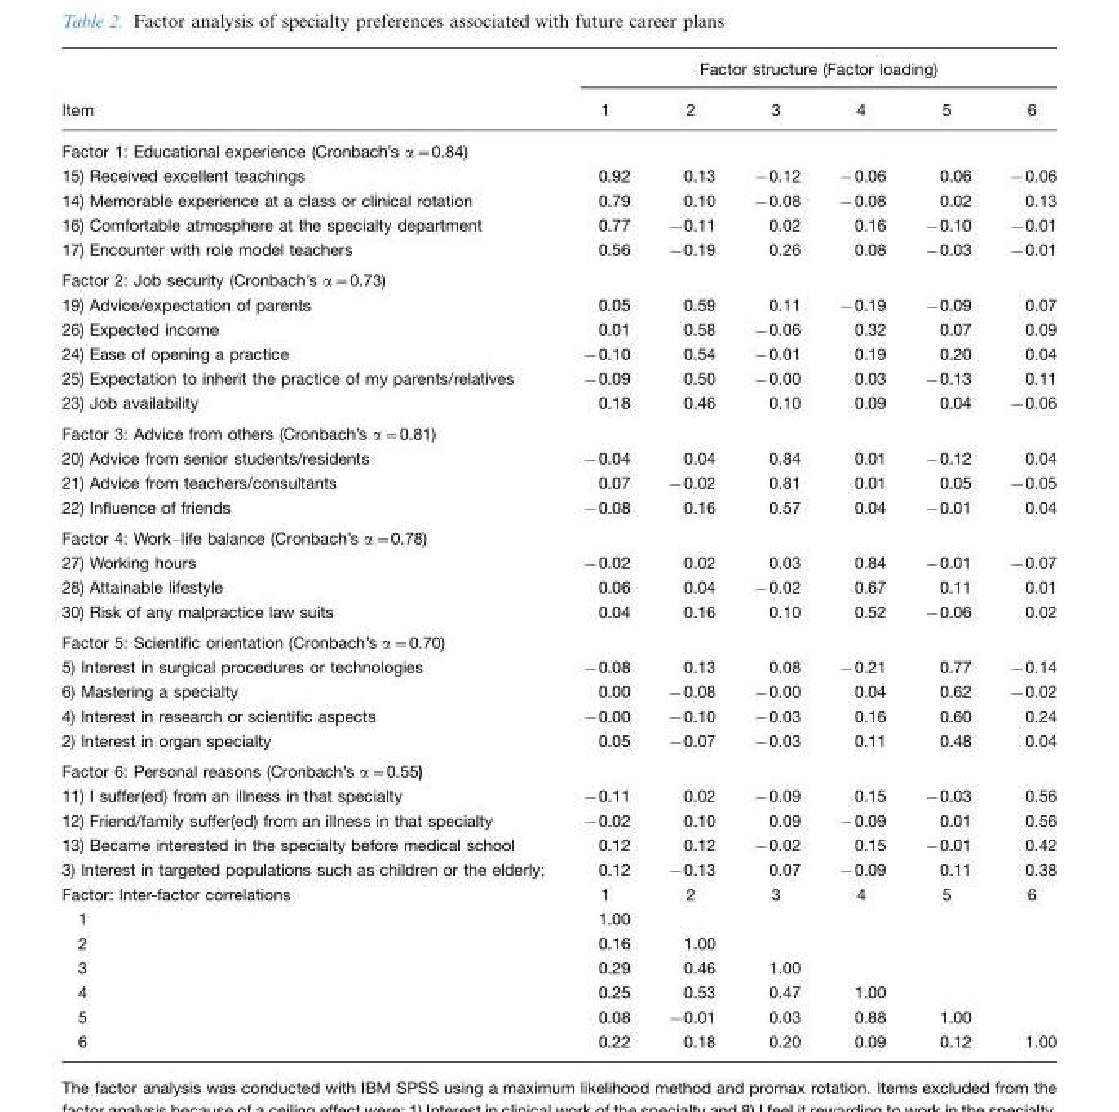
<table><thead><tr><td rowspan="2">Item</td><td colspan="6">Factor structure (Factor loading)</td></tr><tr><td>1</td><td>2</td><td>3</td><td>4</td><td>5</td><td>6</td></tr></thead><tbody><tr><td colspan="7">Factor 1: Educational experience (Cronbach’s α=0.84)</td></tr><tr><td>15) Received excellent teachings</td><td>0.92</td><td>0.13</td><td>−0.12</td><td>−0.06</td><td>0.06</td><td>−0.06</td></tr><tr><td>14) Memorable experience at a class or clinical rotation</td><td>0.79</td><td>0.10</td><td>−0.08</td><td>−0.08</td><td>0.02</td><td>0.13</td></tr><tr><td>16) Comfortable atmosphere at the specialty department</td><td>0.77</td><td>−0.11</td><td>0.02</td><td>0.16</td><td>−0.10</td><td>−0.01</td></tr><tr><td>17) Encounter with role model teachers</td><td>0.56</td><td>−0.19</td><td>0.26</td><td>0.08</td><td>−0.03</td><td>−0.01</td></tr><tr><td colspan="7">Factor 2: Job security (Cronbach’s α=0.73)</td></tr><tr><td>19) Advice/expectation of parents</td><td>0.05</td><td>0.59</td><td>0.11</td><td>−0.19</td><td>−0.09</td><td>0.07</td></tr><tr><td>26) Expected income</td><td>0.01</td><td>0.58</td><td>−0.06</td><td>0.32</td><td>0.07</td><td>0.09</td></tr><tr><td>24) Ease of opening a practice</td><td>−0.10</td><td>0.54</td><td>−0.01</td><td>0.19</td><td>0.20</td><td>0.04</td></tr><tr><td>25) Expectation to inherit the practice of my parents/relatives</td><td>−0.09</td><td>0.50</td><td>−0.00</td><td>0.03</td><td>−0.13</td><td>0.11</td></tr><tr><td>23) Job availability</td><td>0.18</td><td>0.46</td><td>0.10</td><td>0.09</td><td>0.04</td><td>−0.06</td></tr><tr><td colspan="7">Factor 3: Advice from others (Cronbach’s α=0.81)</td></tr><tr><td>20) Advice from senior students/residents</td><td>−0.04</td><td>0.04</td><td>0.84</td><td>0.01</td><td>−0.12</td><td>0.04</td></tr><tr><td>21) Advice from teachers/consultants</td><td>0.07</td><td>−0.02</td><td>0.81</td><td>0.01</td><td>0.05</td><td>−0.05</td></tr><tr><td>22) Influence of friends</td><td>−0.08</td><td>0.16</td><td>0.57</td><td>0.04</td><td>−0.01</td><td>0.04</td></tr><tr><td colspan="7">Factor 4: Work–life balance (Cronbach’s α=0.78)</td></tr><tr><td>27) Working hours</td><td>−0.02</td><td>0.02</td><td>0.03</td><td>0.84</td><td>−0.01</td><td>−0.07</td></tr><tr><td>28) Attainable lifestyle</td><td>0.06</td><td>0.04</td><td>−0.02</td><td>0.67</td><td>0.11</td><td>0.01</td></tr><tr><td>30) Risk of any malpractice law suits</td><td>0.04</td><td>0.16</td><td>0.10</td><td>0.52</td><td>−0.06</td><td>0.02</td></tr><tr><td colspan="7">Factor 5: Scientific orientation (Cronbach’s α=0.70)</td></tr><tr><td>5) Interest in surgical procedures or technologies</td><td>−0.08</td><td>0.13</td><td>0.08</td><td>−0.21</td><td>0.77</td><td>−0.14</td></tr><tr><td>6) Mastering a specialty</td><td>0.00</td><td>−0.08</td><td>−0.00</td><td>0.04</td><td>0.62</td><td>−0.02</td></tr><tr><td>4) Interest in research or scientific aspects</td><td>−0.00</td><td>−0.10</td><td>−0.03</td><td>0.16</td><td>0.60</td><td>0.24</td></tr><tr><td>2) Interest in organ specialty</td><td>0.05</td><td>−0.07</td><td>−0.03</td><td>0.11</td><td>0.48</td><td>0.04</td></tr><tr><td colspan="7">Factor 6: Personal reasons (Cronbach’s α=0.55)</td></tr><tr><td>11) I suffer(ed) from an illness in that specialty</td><td>−0.11</td><td>0.02</td><td>−0.09</td><td>0.15</td><td>−0.03</td><td>0.56</td></tr><tr><td>12) Friend/family suffer(ed) from an illness in that specialty</td><td>−0.02</td><td>0.10</td><td>0.09</td><td>−0.09</td><td>0.01</td><td>0.56</td></tr><tr><td>13) Became interested in the specialty before medical school</td><td>0.12</td><td>0.12</td><td>−0.02</td><td>0.15</td><td>−0.01</td><td>0.42</td></tr><tr><td>3) Interest in targeted populations such as children or the elderly;</td><td>0.12</td><td>−0.13</td><td>0.07</td><td>−0.09</td><td>0.11</td><td>0.38</td></tr><tr><td>Factor: Inter-factor correlations</td><td>1</td><td>2</td><td>3</td><td>4</td><td>5</td><td>6</td></tr><tr><td>1</td><td>1.00</td><td></td><td></td><td></td><td></td><td></td></tr><tr><td>2</td><td>0.16</td><td>1.00</td><td></td><td></td><td></td><td></td></tr><tr><td>3</td><td>0.29</td><td>0.46</td><td>1.00</td><td></td><td></td><td></td></tr><tr><td>4</td><td>0.25</td><td>0.53</td><td>0.47</td><td>1.00</td><td></td><td></td></tr><tr><td>5</td><td>0.08</td><td>−0.01</td><td>0.03</td><td>0.88</td><td>1.00</td><td></td></tr><tr><td>6</td><td>0.22</td><td>0.18</td><td>0.20</td><td>0.09</td><td>0.12</td><td>1.00</td></tr></tbody></table>